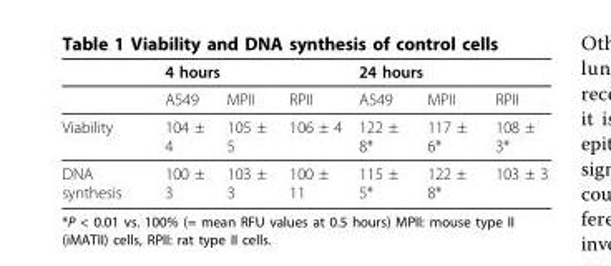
<table><thead><tr><td rowspan="2"></td><td colspan="3">4 hours</td><td colspan="3">24 hours</td></tr><tr><td>A549</td><td>MPII</td><td>RPII</td><td>A549</td><td>MPII</td><td>RPII</td></tr></thead><tbody><tr><td>Viability</td><td>104 ± 4</td><td>105 ± 5</td><td>106 ± 4</td><td>122 ± 8*</td><td>117 ± 6*</td><td>108 ± 3*</td></tr><tr><td>DNA synthesis</td><td>100 ± 3</td><td>103 ± 3</td><td>100 ± 11</td><td>115 ± 5*</td><td>122 ± 8*</td><td>103 ± 3</td></tr></tbody></table>